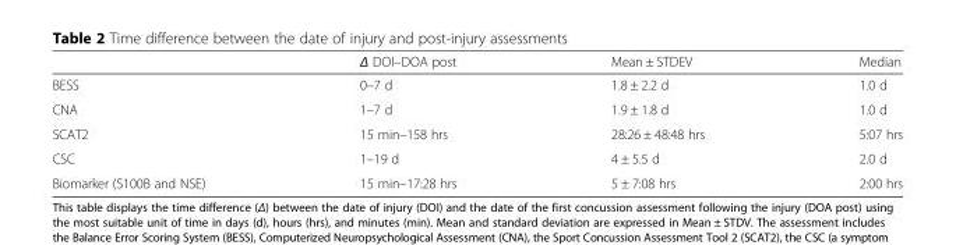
<table><thead><tr><td></td><td>Δ DOI–DOA post</td><td>Mean ± STDEV</td><td>Median</td></tr></thead><tbody><tr><td>BESS</td><td>0–7 d</td><td>1.8 ± 2.2 d</td><td>1.0 d</td></tr><tr><td>CNA</td><td>1–7 d</td><td>1.9 ± 1.8 d</td><td>1.0 d</td></tr><tr><td>SCAT2</td><td>15 min–158 hrs</td><td>28:26 ± 48:48 hrs</td><td>5:07 hrs</td></tr><tr><td>CSC</td><td>1–19 d</td><td>4 ± 5.5 d</td><td>2.0 d</td></tr><tr><td>Biomarker (S100B and NSE)</td><td>15 min–17:28 hrs</td><td>5 ± 7:08 hrs</td><td>2:00 hrs</td></tr></tbody></table>